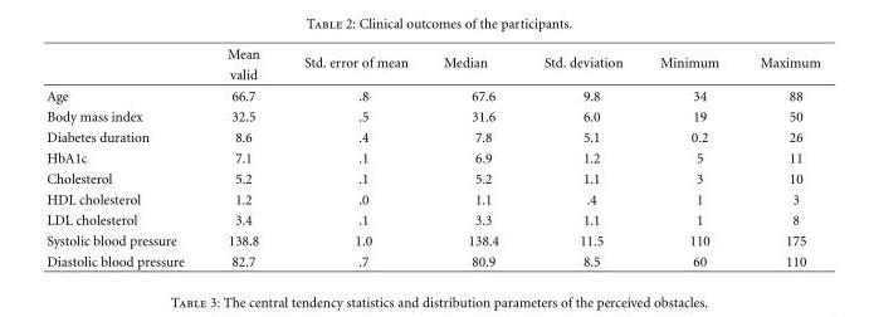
<table><thead><tr><td rowspan="2"></td><td rowspan="2">Mean valid</td><td rowspan="2">Std. error of mean</td><td rowspan="2">Median</td><td rowspan="2">Std. deviation</td><td rowspan="2">Minimum</td><td rowspan="2">Maximum</td></tr><tr></tr></thead><tbody><tr><td>Age</td><td>66.7</td><td>.8</td><td>67.6</td><td>9.8</td><td>34</td><td>88</td></tr><tr><td>Body mass index</td><td>32.5</td><td>.5</td><td>31.6</td><td>6.0</td><td>19</td><td>50</td></tr><tr><td>Diabetes duration</td><td>8.6</td><td>.4</td><td>7.8</td><td>5.1</td><td>0.2</td><td>26</td></tr><tr><td>HbA1c</td><td>7.1</td><td>.1</td><td>6.9</td><td>1.2</td><td>5</td><td>11</td></tr><tr><td>Cholesterol</td><td>5.2</td><td>.1</td><td>5.2</td><td>1.1</td><td>3</td><td>10</td></tr><tr><td>HDL cholesterol</td><td>1.2</td><td>.0</td><td>1.1</td><td>.4</td><td>1</td><td>3</td></tr><tr><td>LDL cholesterol</td><td>3.4</td><td>.1</td><td>3.3</td><td>1.1</td><td>1</td><td>8</td></tr><tr><td>Systolic blood pressure</td><td>138.8</td><td>1.0</td><td>138.4</td><td>11.5</td><td>110</td><td>175</td></tr><tr><td>Diastolic blood pressure</td><td>82.7</td><td>.7</td><td>80.9</td><td>8.5</td><td>60</td><td>110</td></tr></tbody></table>